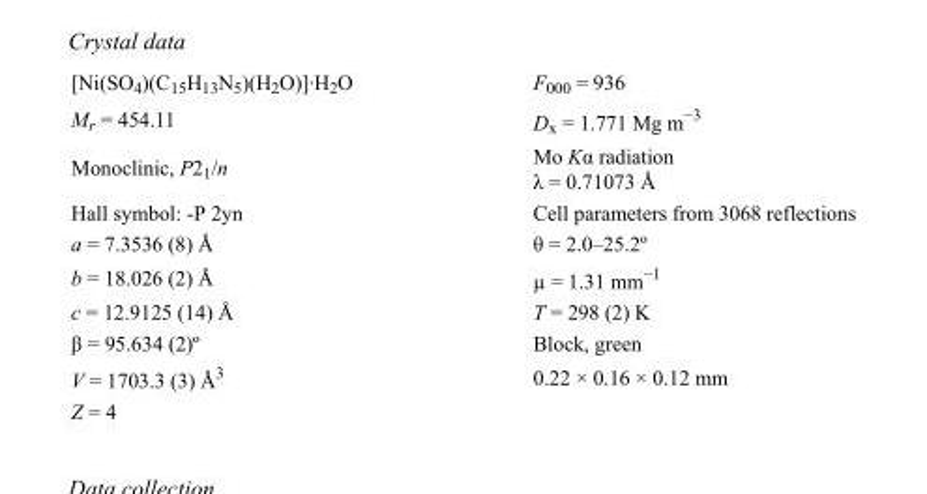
<table><tbody><tr><td>[Ni(SO<sub>4</sub>)(C<sub>15</sub>H<sub>13</sub>N<sub>5</sub>)(H<sub>2</sub>O)]·H<sub>2</sub>O</td><td>F<sub>000</sub> = 936</td></tr><tr><td>M<sub>r</sub> = 454.11</td><td>D<sub>x</sub> = 1.771 Mg m<sup>−3</sup></td></tr><tr><td>Monoclinic, P2<sub>1</sub>/n</td><td>Mo Kα radiation λ = 0.71073 Å</td></tr><tr><td>Hall symbol: -P 2yn</td><td>Cell parameters from 3068 reflections</td></tr><tr><td>a = 7.3536 (8) Å</td><td>θ = 2.0–25.2º</td></tr><tr><td>b = 18.026 (2) Å</td><td>µ = 1.31 mm<sup>−1</sup></td></tr><tr><td>c = 12.9125 (14) Å</td><td>T = 298 (2) K</td></tr><tr><td>β = 95.634 (2)º</td><td>Block, green</td></tr><tr><td>V = 1703.3 (3) Å<sup>3</sup></td><td>0.22 × 0.16 × 0.12 mm</td></tr><tr><td>Z = 4</td><td></td></tr></tbody></table>